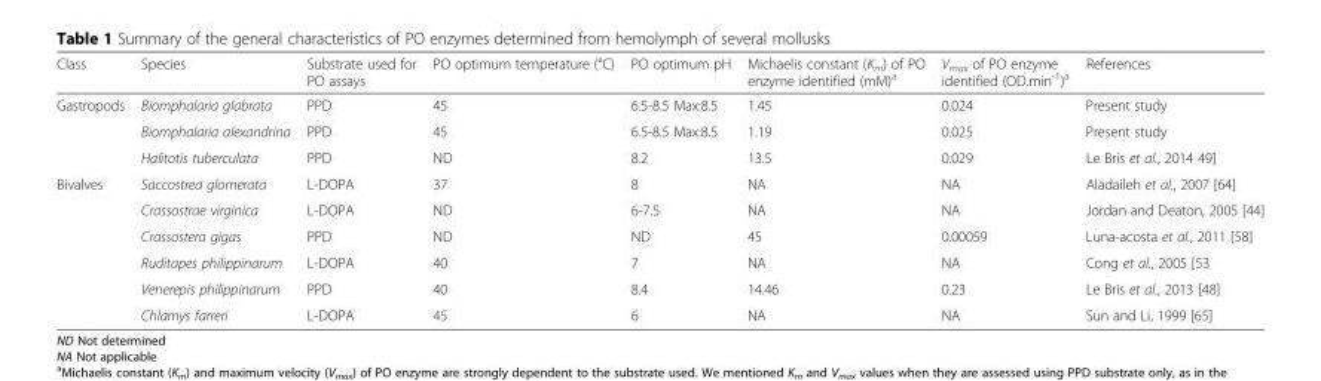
<table><thead><tr><td>Class</td><td>Species</td><td>Substrate used for PO assays</td><td>PO optimum temperature (°C)</td><td>PO optimum pH</td><td>Michaelis constant (K<sub>m</sub>) of PO enzyme identified (mM)<sup>a</sup></td><td>V<sub>max</sub> of PO enzyme identified (OD.min<sup>-1</sup>)<sup>a</sup></td><td>References</td></tr></thead><tbody><tr><td rowspan="3">Gastropods</td><td>Biomphalaria glabrata</td><td>PPD</td><td>45</td><td>6.5-8.5 Max:8.5</td><td>1.45</td><td>0.024</td><td>Present study</td></tr><tr><td>Biomphalaria alexandrina</td><td>PPD</td><td>45</td><td>6.5-8.5 Max:8.5</td><td>1.19</td><td>0.025</td><td>Present study</td></tr><tr><td>Halitotis tuberculata</td><td>PPD</td><td>ND</td><td>8.2</td><td>13.5</td><td>0.029</td><td>Le Bris et al., 2014 49]</td></tr><tr><td rowspan="6">Bivalves</td><td>Saccostrea glomerata</td><td>L-DOPA</td><td>37</td><td>8</td><td>NA</td><td>NA</td><td>Aladaileh et al., 2007 [64]</td></tr><tr><td>Crassostrae virginica</td><td>L-DOPA</td><td>ND</td><td>6-7.5</td><td>NA</td><td>NA</td><td>Jordan and Deaton, 2005 [44]</td></tr><tr><td>Crassostera gigas</td><td>PPD</td><td>ND</td><td>ND</td><td>45</td><td>0.00059</td><td>Luna-acosta et al., 2011 [58]</td></tr><tr><td>Ruditapes philippinarum</td><td>L-DOPA</td><td>40</td><td>7</td><td>NA</td><td>NA</td><td>Cong et al., 2005 [53</td></tr><tr><td>Venerepis philippinarum</td><td>PPD</td><td>40</td><td>8.4</td><td>14.46</td><td>0.23</td><td>Le Bris et al., 2013 [48]</td></tr><tr><td>Chlamys farreri</td><td>L-DOPA</td><td>45</td><td>6</td><td>NA</td><td>NA</td><td>Sun and Li, 1999 [65]</td></tr></tbody></table>